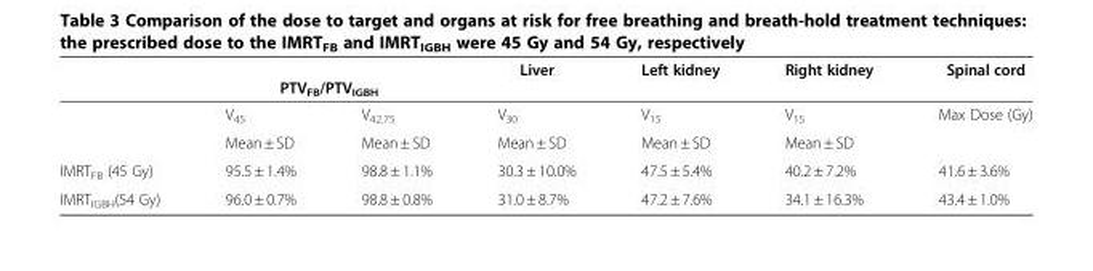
<table><thead><tr><td rowspan="2"></td><td colspan="2">PTV<sub>FB</sub>/PTV<sub>IGBH</sub></td><td rowspan="2">Liver V<sub>30</sub></td><td rowspan="2">Left kidney V<sub>15</sub></td><td rowspan="2">Right kidney V<sub>15</sub></td><td rowspan="2">Spinal cord Max Dose (Gy)</td></tr><tr><td>V<sub>45</sub></td><td>V<sub>42.75</sub></td></tr></thead><tbody><tr><td></td><td>Mean ± SD</td><td>Mean ± SD</td><td>Mean ± SD</td><td>Mean ± SD</td><td>Mean ± SD</td><td></td></tr><tr><td>IMRT<sub>FB</sub> (45 Gy)</td><td>95.5 ± 1.4%</td><td>98.8 ± 1.1%</td><td>30.3 ± 10.0%</td><td>47.5 ± 5.4%</td><td>40.2 ± 7.2%</td><td>41.6 ± 3.6%</td></tr><tr><td>IMRT<sub>IGBH</sub>(54 Gy)</td><td>96.0 ± 0.7%</td><td>98.8 ± 0.8%</td><td>31.0 ± 8.7%</td><td>47.2 ± 7.6%</td><td>34.1 ± 16.3%</td><td>43.4 ± 1.0%</td></tr></tbody></table>